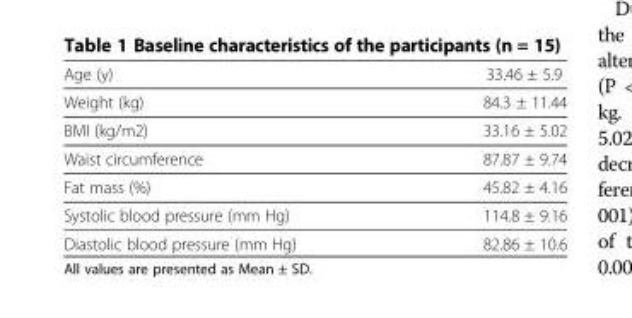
<table><thead><tr><td>Age (y)</td><td>33.46 ± 5.9</td></tr></thead><tbody><tr><td>Weight (kg)</td><td>84.3 ± 11.44</td></tr><tr><td>BMI (kg/m2)</td><td>33.16 ± 5.02</td></tr><tr><td>Waist circumference</td><td>87.87 ± 9.74</td></tr><tr><td>Fat mass (%)</td><td>45.82 ± 4.16</td></tr><tr><td>Systolic blood pressure (mm Hg)</td><td>114.8 ± 9.16</td></tr><tr><td>Diastolic blood pressure (mm Hg)</td><td>82.86 ± 10.6</td></tr></tbody></table>